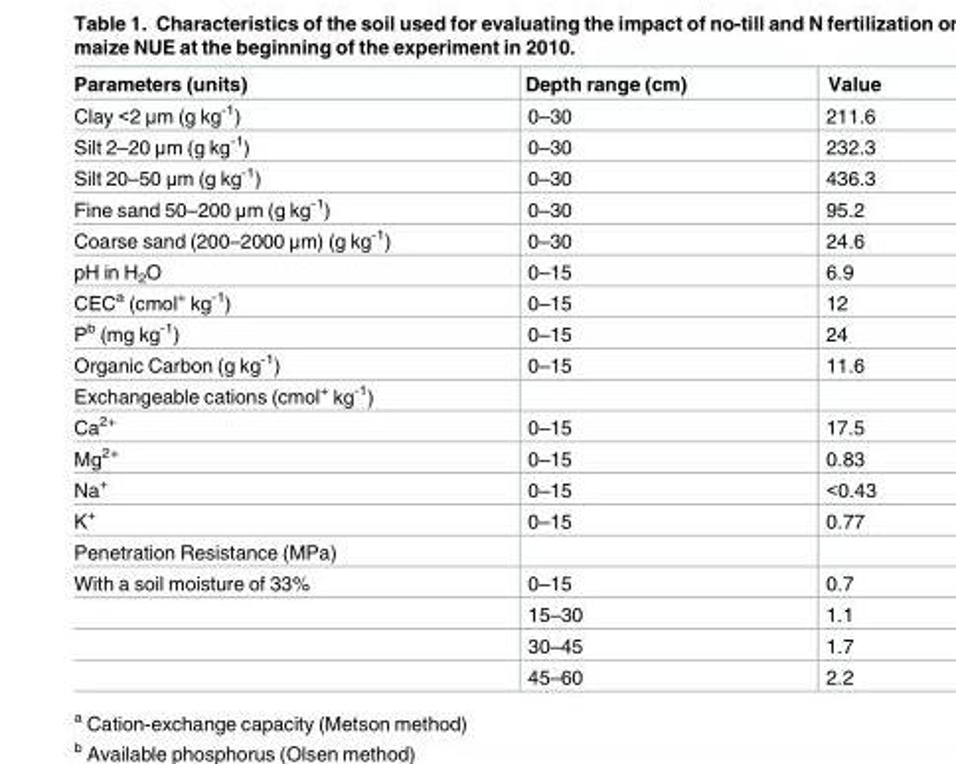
<table><thead><tr><td>Parameters (units)</td><td>Depth range (cm)</td><td>Value</td></tr></thead><tbody><tr><td>Clay &lt;2 μm (g kg<sup>-1</sup>)</td><td>0–30</td><td>211.6</td></tr><tr><td>Silt 2–20 μm (g kg<sup>-1</sup>)</td><td>0–30</td><td>232.3</td></tr><tr><td>Silt 20–50 μm (g kg<sup>-1</sup>)</td><td>0–30</td><td>436.3</td></tr><tr><td>Fine sand 50–200 μm (g kg<sup>-1</sup>)</td><td>0–30</td><td>95.2</td></tr><tr><td>Coarse sand (200–2000 μm) (g kg<sup>-1</sup>)</td><td>0–30</td><td>24.6</td></tr><tr><td>pH in H<sub>2</sub>O</td><td>0–15</td><td>6.9</td></tr><tr><td>CEC<sup>a</sup> (cmol<sup>+</sup> kg<sup>-1</sup>)</td><td>0–15</td><td>12</td></tr><tr><td>P<sup>b</sup> (mg kg<sup>-1</sup>)</td><td>0–15</td><td>24</td></tr><tr><td>Organic Carbon (g kg<sup>-1</sup>)</td><td>0–15</td><td>11.6</td></tr><tr><td colspan="3">Exchangeable cations (cmol<sup>+</sup> kg<sup>-1</sup>)</td></tr><tr><td>Ca<sup>2+</sup></td><td>0–15</td><td>17.5</td></tr><tr><td>Mg<sup>2+</sup></td><td>0–15</td><td>0.83</td></tr><tr><td>Na<sup>+</sup></td><td>0–15</td><td>&lt;0.43</td></tr><tr><td>K<sup>+</sup></td><td>0–15</td><td>0.77</td></tr><tr><td colspan="3">Penetration Resistance (MPa)</td></tr><tr><td rowspan="4">With a soil moisture of 33%</td><td>0–15</td><td>0.7</td></tr><tr><td>15–30</td><td>1.1</td></tr><tr><td>30–45</td><td>1.7</td></tr><tr><td>45–60</td><td>2.2</td></tr></tbody></table>